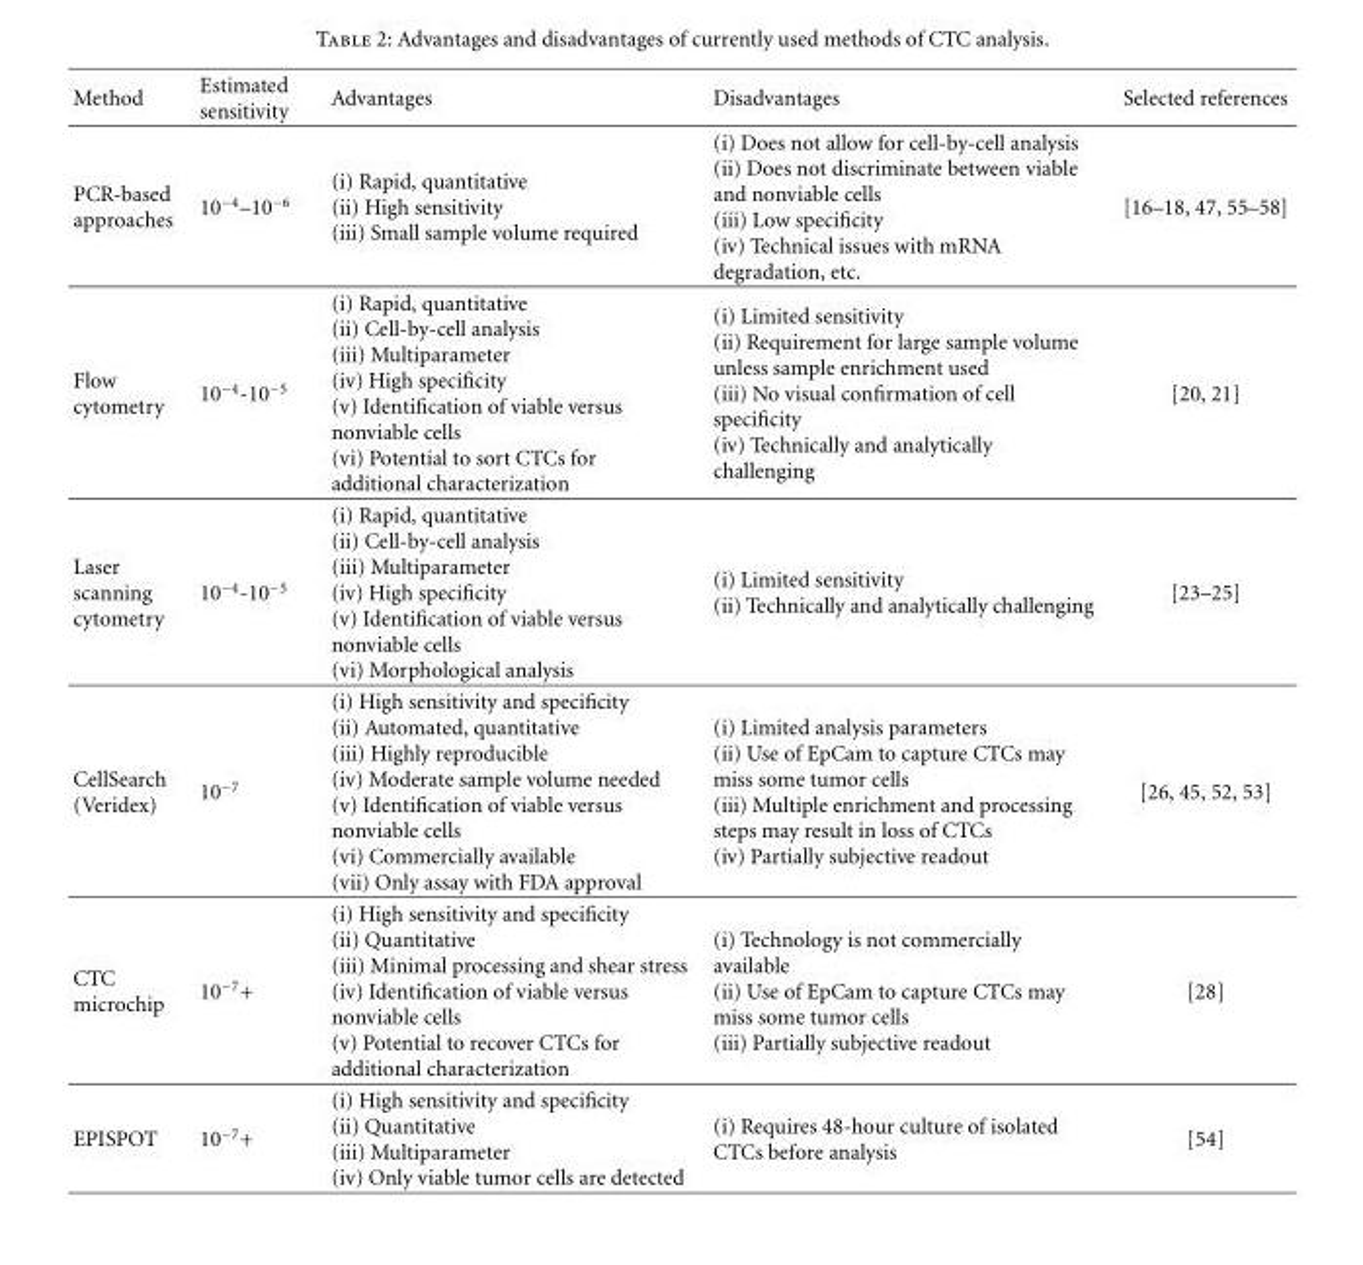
<table><thead><tr><td>Method</td><td>Estimated sensitivity</td><td>Advantages</td><td>Disadvantages</td><td>Selected references</td></tr></thead><tbody><tr><td>PCR-based approaches</td><td>10<sup>−4</sup>–10<sup>−6</sup></td><td>(i) Rapid, quantitative (ii) High sensitivity (iii) Small sample volume required</td><td>(i) Does not allow for cell-by-cell analysis (ii) Does not discriminate between viable and nonviable cells (iii) Low specificity (iv) Technical issues with mRNA degradation, etc.</td><td>[16–18, 47, 55–58]</td></tr><tr><td>Flow cytometry</td><td>10<sup>−4</sup>-10<sup>−5</sup></td><td>(i) Rapid, quantitative (ii) Cell-by-cell analysis (iii) Multiparameter (iv) High specificity (v) Identification of viable versus nonviable cells (vi) Potential to sort CTCs for additional characterization</td><td>(i) Limited sensitivity (ii) Requirement for large sample volume unless sample enrichment used (iii) No visual confirmation of cell specificity (iv) Technically and analytically challenging</td><td>[20, 21]</td></tr><tr><td>Laser scanning cytometry</td><td>10<sup>−4</sup>-10<sup>−5</sup></td><td>(i) Rapid, quantitative (ii) Cell-by-cell analysis (iii) Multiparameter (iv) High specificity (v) Identification of viable versus nonviable cells (vi) Morphological analysis</td><td>(i) Limited sensitivity (ii) Technically and analytically challenging</td><td>[23–25]</td></tr><tr><td>CellSearch (Veridex)</td><td>10<sup>−7</sup></td><td>(i) High sensitivity and specificity (ii) Automated, quantitative (iii) Highly reproducible (iv) Moderate sample volume needed (v) Identification of viable versus nonviable cells (vi) Commercially available (vii) Only assay with FDA approval</td><td>(i) Limited analysis parameters (ii) Use of EpCam to capture CTCs may miss some tumor cells (iii) Multiple enrichment and processing steps may result in loss of CTCs (iv) Partially subjective readout</td><td>[26, 45, 52, 53]</td></tr><tr><td>CTC microchip</td><td>10<sup>−7</sup>+</td><td>(i) High sensitivity and specificity (ii) Quantitative (iii) Minimal processing and shear stress (iv) Identification of viable versus nonviable cells (v) Potential to recover CTCs for additional characterization</td><td>(i) Technology is not commercially available (ii) Use of EpCam to capture CTCs may miss some tumor cells (iii) Partially subjective readout</td><td>[28]</td></tr><tr><td>EPISPOT</td><td>10<sup>−7</sup>+</td><td>(i) High sensitivity and specificity (ii) Quantitative (iii) Multiparameter (iv) Only viable tumor cells are detected</td><td>(i) Requires 48-hour culture of isolated CTCs before analysis</td><td>[54]</td></tr></tbody></table>